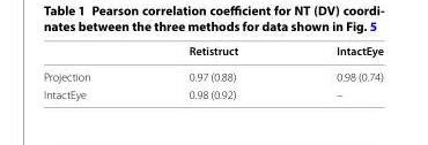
<table><thead><tr><td></td><td>Retistruct</td><td>IntactEye</td></tr></thead><tbody><tr><td>Projection</td><td>0.97 (0.88)</td><td>0.98 (0.74)</td></tr><tr><td>IntactEye</td><td>0.98 (0.92)</td><td>–</td></tr></tbody></table>